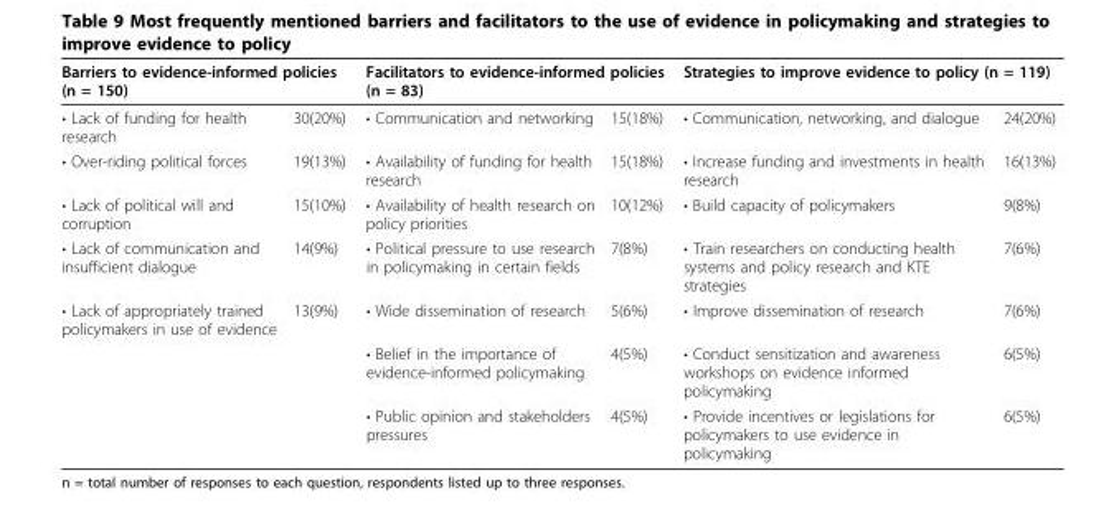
<table><thead><tr><td colspan="2">Barriers to evidence-informed policies (n = 150)</td><td colspan="2">Facilitators to evidence-informed policies (n = 83)</td><td colspan="2">Strategies to improve evidence to policy (n = 119)</td></tr><tr><td>• Lack of funding for health research</td><td>30(20%)</td><td>• Communication and networking</td><td>15(18%)</td><td>• Communication, networking, and dialogue</td><td>24(20%)</td></tr></thead><tbody><tr><td>• Over-riding political forces</td><td>19(13%)</td><td>• Availability of funding for health research</td><td>15(18%)</td><td>• Increase funding and investments in health research</td><td>16(13%)</td></tr><tr><td>• Lack of political will and corruption</td><td>15(10%)</td><td>• Availability of health research on policy priorities</td><td>10(12%)</td><td>• Build capacity of policymakers</td><td>9(8%)</td></tr><tr><td>• Lack of communication and insufficient dialogue</td><td>14(9%)</td><td>• Political pressure to use research in policymaking in certain fields</td><td>7(8%)</td><td>• Train researchers on conducting health systems and policy research and KTE strategies</td><td>7(6%)</td></tr><tr><td rowspan="3">• Lack of appropriately trained policymakers in use of evidence</td><td>13(9%)</td><td>• Wide dissemination of research</td><td>5(6%)</td><td>• Improve dissemination of research</td><td>7(6%)</td></tr><tr><td></td><td>• Belief in the importance of evidence-informed policymaking</td><td>4(5%)</td><td>• Conduct sensitization and awareness workshops on evidence informed policymaking</td><td>6(5%)</td></tr><tr><td></td><td>• Public opinion and stakeholders pressures</td><td>4(5%)</td><td>• Provide incentives or legislations for policymakers to use evidence in policymaking</td><td>6(5%)</td></tr></tbody></table>